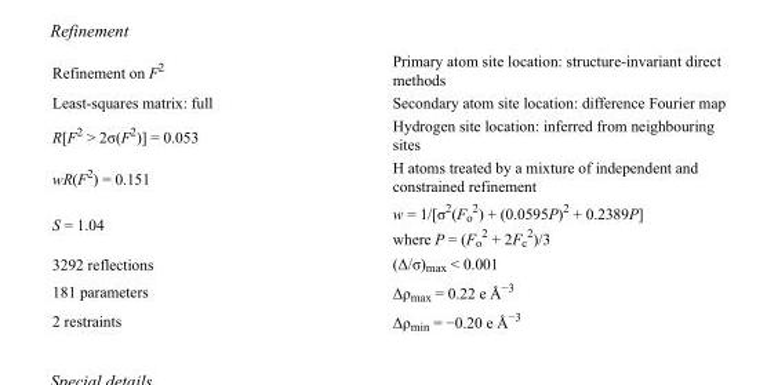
<table><tbody><tr><td>Refinement on F<sup>2</sup></td><td>Primary atom site location: structure-invariant direct methods</td></tr><tr><td>Least-squares matrix: full</td><td>Secondary atom site location: difference Fourier map</td></tr><tr><td>R[F<sup>2</sup> &gt; 2σ(F<sup>2</sup>)] = 0.053</td><td>Hydrogen site location: inferred from neighbouring sites</td></tr><tr><td>wR(F<sup>2</sup>) = 0.151</td><td>H atoms treated by a mixture of independent and constrained refinement</td></tr><tr><td>S = 1.04</td><td>w = 1/[σ<sup>2</sup>(F<sub>o</sub> <sup>2</sup>) + (0.0595P)<sup>2</sup> + 0.2389P] where P = (F<sub>o</sub> <sup>2</sup> + 2F<sub>c</sub> <sup>2</sup>)/3</td></tr><tr><td>3292 reflections</td><td>(Δ/σ)<sub>max</sub> &lt; 0.001</td></tr><tr><td>181 parameters</td><td>Δρ<sub>max</sub> = 0.22 e Å<sup>−3</sup></td></tr><tr><td>2 restraints</td><td>Δρ<sub>min</sub> = −0.20 e Å<sup>−3</sup></td></tr></tbody></table>